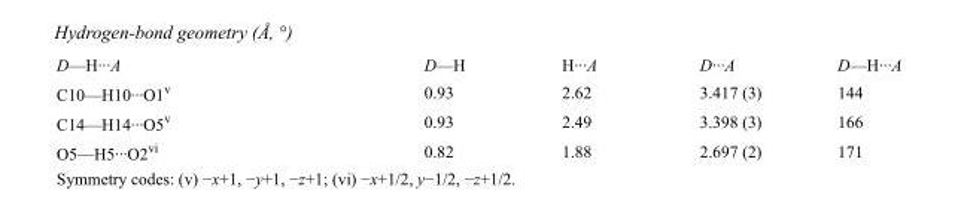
<table><tbody><tr><td>D—H···A</td><td>D—H</td><td>H···A</td><td>D···A</td><td>D—H···A</td></tr><tr><td>C10—H10···O1<sup>v</sup></td><td>0.93</td><td>2.62</td><td>3.417 (3)</td><td>144</td></tr><tr><td>C14—H14···O5<sup>v</sup></td><td>0.93</td><td>2.49</td><td>3.398 (3)</td><td>166</td></tr><tr><td>O5—H5···O2<sup>vi</sup></td><td>0.82</td><td>1.88</td><td>2.697 (2)</td><td>171</td></tr></tbody></table>